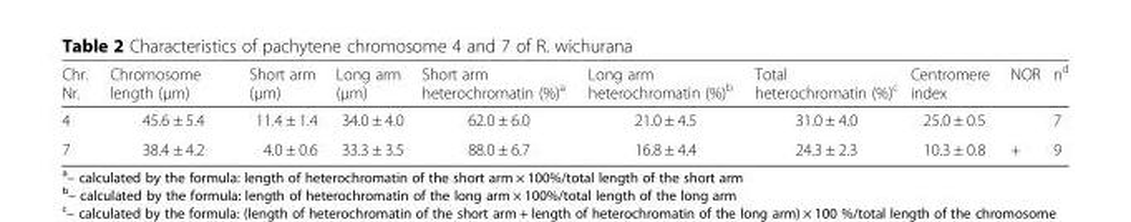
<table><thead><tr><td>Chr. Nr.</td><td>Chromosome length (μm)</td><td>Short arm (μm)</td><td>Long arm (μm)</td><td>Short arm heterochromatin (%)<sup>a</sup></td><td>Long arm heterochromatin (%)<sup>b</sup></td><td>Total heterochromatin (%)<sup>c</sup></td><td>Centromere index</td><td>NOR</td><td>n<sup>d</sup></td></tr></thead><tbody><tr><td>4</td><td>45.6 ± 5.4</td><td>11.4 ± 1.4</td><td>34.0 ± 4.0</td><td>62.0 ± 6.0</td><td>21.0 ± 4.5</td><td>31.0 ± 4.0</td><td>25.0 ± 0.5</td><td></td><td>7</td></tr><tr><td>7</td><td>38.4 ± 4.2</td><td>4.0 ± 0.6</td><td>33.3 ± 3.5</td><td>88.0 ± 6.7</td><td>16.8 ± 4.4</td><td>24.3 ± 2.3</td><td>10.3 ± 0.8</td><td>+</td><td>9</td></tr></tbody></table>